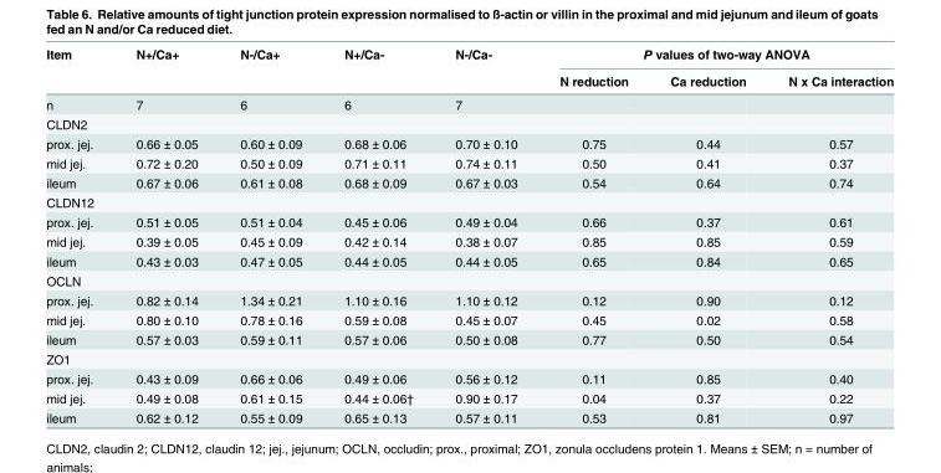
<table><thead><tr><td rowspan="2">Item</td><td rowspan="2">N+/Ca+</td><td rowspan="2">N-/Ca+</td><td rowspan="2">N+/Ca-</td><td rowspan="2">N-/Ca-</td><td colspan="3">P values of two-way ANOVA</td></tr><tr><td>N reduction</td><td>Ca reduction</td><td>N x Ca interaction</td></tr></thead><tbody><tr><td>n</td><td>7</td><td>6</td><td>6</td><td>7</td><td></td><td></td><td></td></tr><tr><td colspan="8">CLDN2</td></tr><tr><td>prox. jej.</td><td>0.66 ± 0.05</td><td>0.60 ± 0.09</td><td>0.68 ± 0.06</td><td>0.70 ± 0.10</td><td>0.75</td><td>0.44</td><td>0.57</td></tr><tr><td>mid jej.</td><td>0.72 ± 0.20</td><td>0.50 ± 0.09</td><td>0.71 ± 0.11</td><td>0.74 ± 0.11</td><td>0.50</td><td>0.41</td><td>0.37</td></tr><tr><td>ileum</td><td>0.67 ± 0.06</td><td>0.61 ± 0.08</td><td>0.68 ± 0.09</td><td>0.67 ± 0.03</td><td>0.54</td><td>0.64</td><td>0.74</td></tr><tr><td colspan="8">CLDN12</td></tr><tr><td>prox. jej.</td><td>0.51 ± 0.05</td><td>0.51 ± 0.04</td><td>0.45 ± 0.06</td><td>0.49 ± 0.04</td><td>0.66</td><td>0.37</td><td>0.61</td></tr><tr><td>mid jej.</td><td>0.39 ± 0.05</td><td>0.45 ± 0.09</td><td>0.42 ± 0.14</td><td>0.38 ± 0.07</td><td>0.85</td><td>0.85</td><td>0.59</td></tr><tr><td>ileum</td><td>0.43 ± 0.03</td><td>0.47 ± 0.05</td><td>0.44 ± 0.05</td><td>0.44 ± 0.05</td><td>0.65</td><td>0.84</td><td>0.65</td></tr><tr><td colspan="8">OCLN</td></tr><tr><td>prox. jej.</td><td>0.82 ± 0.14</td><td>1.34 ± 0.21</td><td>1.10 ± 0.16</td><td>1.10 ± 0.12</td><td>0.12</td><td>0.90</td><td>0.12</td></tr><tr><td>mid jej.</td><td>0.80 ± 0.10</td><td>0.78 ± 0.16</td><td>0.59 ± 0.08</td><td>0.45 ± 0.07</td><td>0.45</td><td>0.02</td><td>0.58</td></tr><tr><td>ileum</td><td>0.57 ± 0.03</td><td>0.59 ± 0.11</td><td>0.57 ± 0.06</td><td>0.50 ± 0.08</td><td>0.77</td><td>0.50</td><td>0.54</td></tr><tr><td colspan="8">ZO1</td></tr><tr><td>prox. jej.</td><td>0.43 ± 0.09</td><td>0.66 ± 0.06</td><td>0.49 ± 0.06</td><td>0.56 ± 0.12</td><td>0.11</td><td>0.85</td><td>0.40</td></tr><tr><td>mid jej.</td><td>0.49 ± 0.08</td><td>0.61 ± 0.15</td><td>0.44 ± 0.06†</td><td>0.90 ± 0.17</td><td>0.04</td><td>0.37</td><td>0.22</td></tr><tr><td>ileum</td><td>0.62 ± 0.12</td><td>0.55 ± 0.09</td><td>0.65 ± 0.13</td><td>0.57 ± 0.11</td><td>0.53</td><td>0.81</td><td>0.97</td></tr></tbody></table>